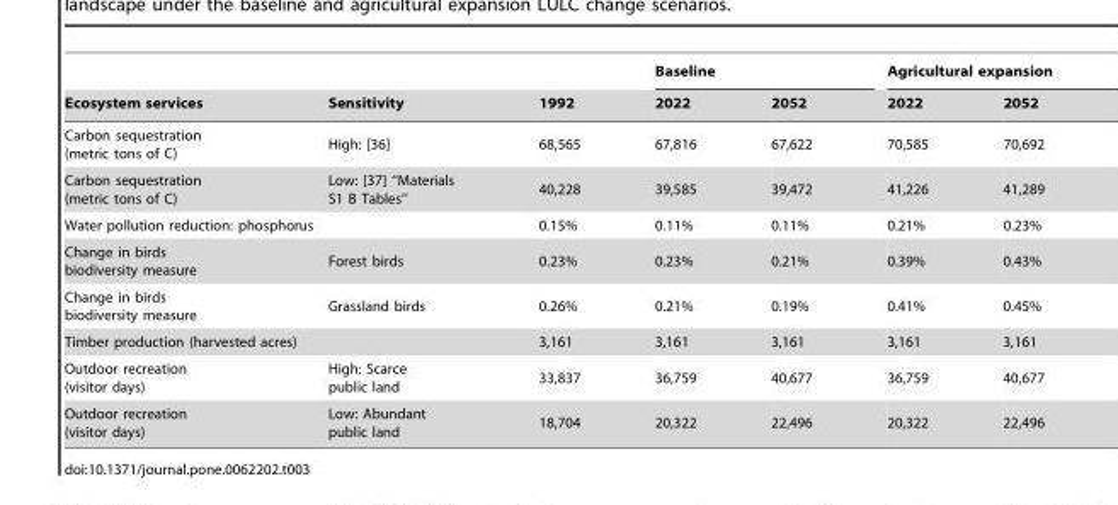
<table><thead><tr><td rowspan="2">Ecosystem services</td><td rowspan="2">Sensitivity</td><td rowspan="2">1992</td><td colspan="2">Baseline</td><td colspan="2">Agricultural expansion</td></tr><tr><td>2022</td><td>2052</td><td>2022</td><td>2052</td></tr></thead><tbody><tr><td>Carbon sequestration (metric tons of C)</td><td>High: [36]</td><td>68,565</td><td>67,816</td><td>67,622</td><td>70,585</td><td>70,692</td></tr><tr><td>Carbon sequestration (metric tons of C)</td><td>Low: [37] ‘‘Materials S1 B Tables’’</td><td>40,228</td><td>39,585</td><td>39,472</td><td>41,226</td><td>41,289</td></tr><tr><td colspan="2">Water pollution reduction: phosphorus</td><td>0.15%</td><td>0.11%</td><td>0.11%</td><td>0.21%</td><td>0.23%</td></tr><tr><td>Change in birds biodiversity measure</td><td>Forest birds</td><td>0.23%</td><td>0.23%</td><td>0.21%</td><td>0.39%</td><td>0.43%</td></tr><tr><td>Change in birds biodiversity measure</td><td>Grassland birds</td><td>0.26%</td><td>0.21%</td><td>0.19%</td><td>0.41%</td><td>0.45%</td></tr><tr><td colspan="2">Timber production (harvested acres)</td><td>3,161</td><td>3,161</td><td>3,161</td><td>3,161</td><td>3,161</td></tr><tr><td>Outdoor recreation (visitor days)</td><td>High: Scarce public land</td><td>33,837</td><td>36,759</td><td>40,677</td><td>36,759</td><td>40,677</td></tr><tr><td>Outdoor recreation (visitor days)</td><td>Low: Abundant public land</td><td>18,704</td><td>20,322</td><td>22,496</td><td>20,322</td><td>22,496</td></tr></tbody></table>